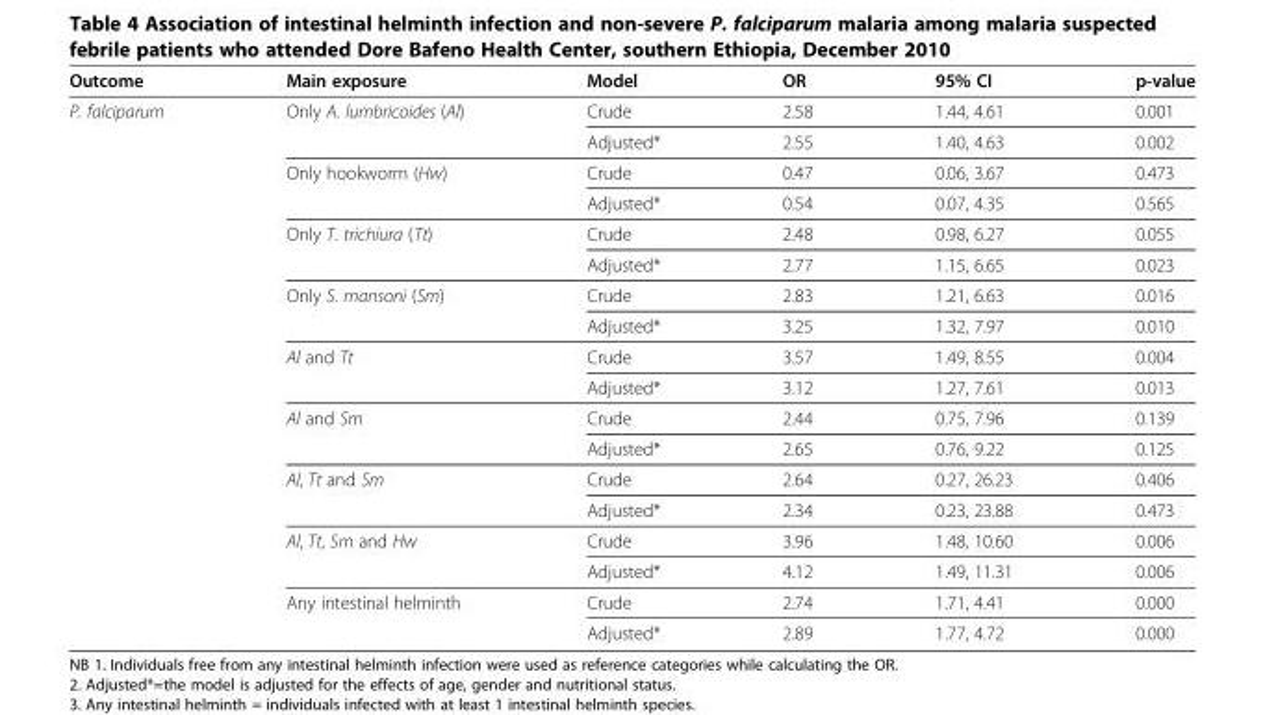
<table><thead><tr><td>Outcome</td><td>Main exposure</td><td>Model</td><td>OR</td><td>95% CI</td><td>p-value</td></tr></thead><tbody><tr><td rowspan="18">P. falciparum</td><td>Only A. lumbricoides (Al)</td><td>Crude</td><td>2.58</td><td>1.44, 4.61</td><td>0.001</td></tr><tr><td></td><td>Adjusted*</td><td>2.55</td><td>1.40, 4.63</td><td>0.002</td></tr><tr><td>Only hookworm (Hw)</td><td>Crude</td><td>0.47</td><td>0.06, 3.67</td><td>0.473</td></tr><tr><td></td><td>Adjusted*</td><td>0.54</td><td>0.07, 4.35</td><td>0.565</td></tr><tr><td>Only T. trichiura (Tt)</td><td>Crude</td><td>2.48</td><td>0.98, 6.27</td><td>0.055</td></tr><tr><td></td><td>Adjusted*</td><td>2.77</td><td>1.15, 6.65</td><td>0.023</td></tr><tr><td>Only S. mansoni (Sm)</td><td>Crude</td><td>2.83</td><td>1.21, 6.63</td><td>0.016</td></tr><tr><td></td><td>Adjusted*</td><td>3.25</td><td>1.32, 7.97</td><td>0.010</td></tr><tr><td>Al and Tt</td><td>Crude</td><td>3.57</td><td>1.49, 8.55</td><td>0.004</td></tr><tr><td></td><td>Adjusted*</td><td>3.12</td><td>1.27, 7.61</td><td>0.013</td></tr><tr><td>Al and Sm</td><td>Crude</td><td>2.44</td><td>0.75, 7.96</td><td>0.139</td></tr><tr><td></td><td>Adjusted*</td><td>2.65</td><td>0.76, 9.22</td><td>0.125</td></tr><tr><td>Al, Tt and Sm</td><td>Crude</td><td>2.64</td><td>0.27, 26.23</td><td>0.406</td></tr><tr><td></td><td>Adjusted*</td><td>2.34</td><td>0.23, 23.88</td><td>0.473</td></tr><tr><td>Al, Tt, Sm and Hw</td><td>Crude</td><td>3.96</td><td>1.48, 10.60</td><td>0.006</td></tr><tr><td></td><td>Adjusted*</td><td>4.12</td><td>1.49, 11.31</td><td>0.006</td></tr><tr><td>Any intestinal helminth</td><td>Crude</td><td>2.74</td><td>1.71, 4.41</td><td>0.000</td></tr><tr><td></td><td>Adjusted*</td><td>2.89</td><td>1.77, 4.72</td><td>0.000</td></tr></tbody></table>